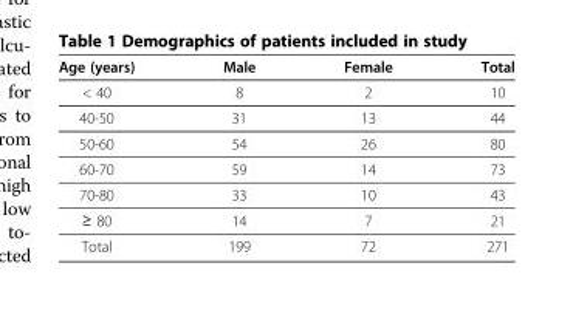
<table><thead><tr><td>Age (years)</td><td>Male</td><td>Female</td><td>Total</td></tr></thead><tbody><tr><td>&lt; 40</td><td>8</td><td>2</td><td>10</td></tr><tr><td>40-50</td><td>31</td><td>13</td><td>44</td></tr><tr><td>50-60</td><td>54</td><td>26</td><td>80</td></tr><tr><td>60-70</td><td>59</td><td>14</td><td>73</td></tr><tr><td>70-80</td><td>33</td><td>10</td><td>43</td></tr><tr><td>≥ 80</td><td>14</td><td>7</td><td>21</td></tr><tr><td>Total</td><td>199</td><td>72</td><td>271</td></tr></tbody></table>